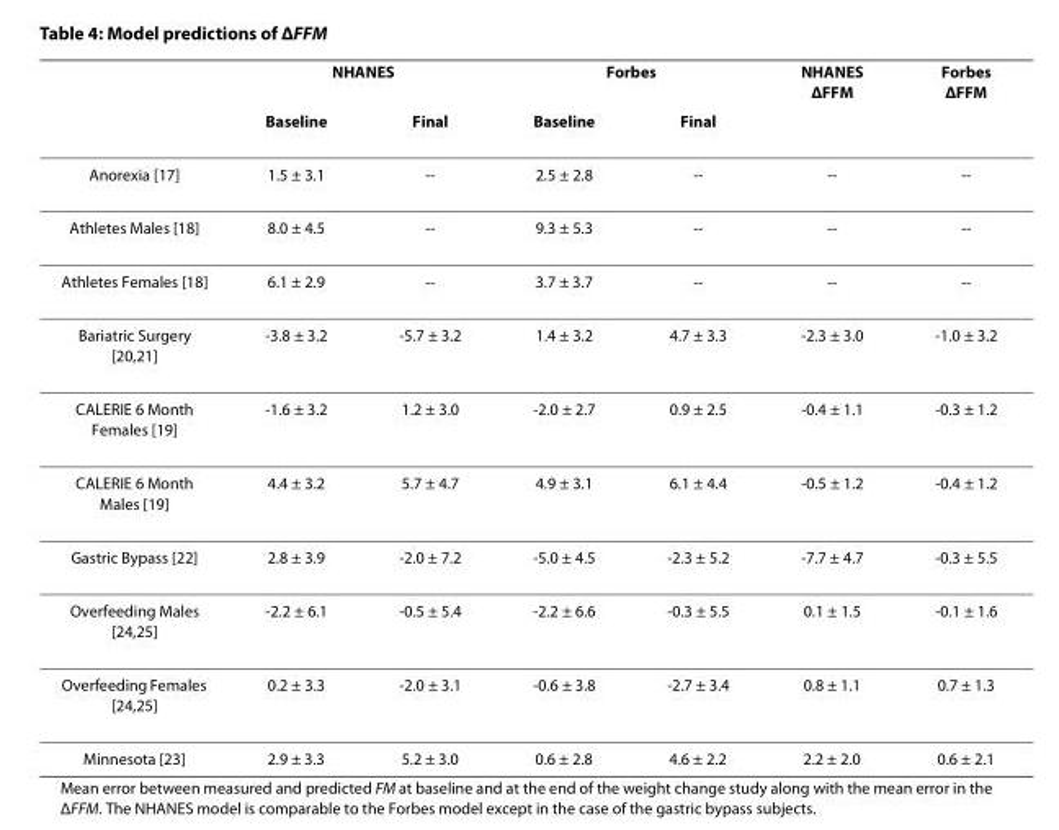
<table><thead><tr><td rowspan="2"></td><td colspan="2">NHANES</td><td colspan="2">Forbes</td><td rowspan="2">NHANES ΔFFM</td><td rowspan="2">Forbes ΔFFM</td></tr><tr><td>Baseline</td><td>Final</td><td>Baseline</td><td>Final</td></tr></thead><tbody><tr><td>Anorexia [17]</td><td>1.5 ± 3.1</td><td>--</td><td>2.5 ± 2.8</td><td>--</td><td>--</td><td>--</td></tr><tr><td>Athletes Males [18]</td><td>8.0 ± 4.5</td><td>--</td><td>9.3 ± 5.3</td><td>--</td><td>--</td><td>--</td></tr><tr><td>Athletes Females [18]</td><td>6.1 ± 2.9</td><td>--</td><td>3.7 ± 3.7</td><td>--</td><td>--</td><td>--</td></tr><tr><td>Bariatric Surgery [20,21]</td><td>-3.8 ± 3.2</td><td>-5.7 ± 3.2</td><td>1.4 ± 3.2</td><td>4.7 ± 3.3</td><td>-2.3 ± 3.0</td><td>-1.0 ± 3.2</td></tr><tr><td>CALERIE 6 Month Females [19]</td><td>-1.6 ± 3.2</td><td>1.2 ± 3.0</td><td>-2.0 ± 2.7</td><td>0.9 ± 2.5</td><td>-0.4 ± 1.1</td><td>-0.3 ± 1.2</td></tr><tr><td>CALERIE 6 Month Males [19]</td><td>4.4 ± 3.2</td><td>5.7 ± 4.7</td><td>4.9 ± 3.1</td><td>6.1 ± 4.4</td><td>-0.5 ± 1.2</td><td>-0.4 ± 1.2</td></tr><tr><td>Gastric Bypass [22]</td><td>2.8 ± 3.9</td><td>-2.0 ± 7.2</td><td>-5.0 ± 4.5</td><td>-2.3 ± 5.2</td><td>-7.7 ± 4.7</td><td>-0.3 ± 5.5</td></tr><tr><td>Overfeeding Males [24,25]</td><td>-2.2 ± 6.1</td><td>-0.5 ± 5.4</td><td>-2.2 ± 6.6</td><td>-0.3 ± 5.5</td><td>0.1 ± 1.5</td><td>-0.1 ± 1.6</td></tr><tr><td>Overfeeding Females [24,25]</td><td>0.2 ± 3.3</td><td>-2.0 ± 3.1</td><td>-0.6 ± 3.8</td><td>-2.7 ± 3.4</td><td>0.8 ± 1.1</td><td>0.7 ± 1.3</td></tr><tr><td>Minnesota [23]</td><td>2.9 ± 3.3</td><td>5.2 ± 3.0</td><td>0.6 ± 2.8</td><td>4.6 ± 2.2</td><td>2.2 ± 2.0</td><td>0.6 ± 2.1</td></tr></tbody></table>